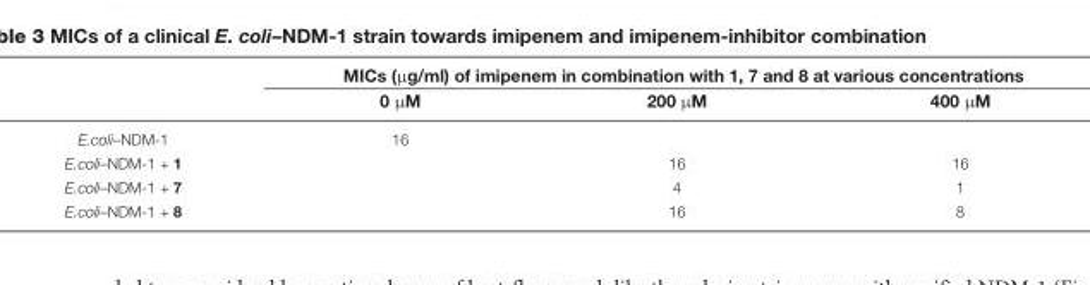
<table><thead><tr><td rowspan="2"></td><td colspan="3">MICs (μg/ml) of imipenem in combination with 1, 7 and 8 at various concentrations</td></tr><tr><td>0 μM</td><td>200 μM</td><td>400 μM</td></tr></thead><tbody><tr><td>E.coli–NDM-1</td><td>16</td><td></td><td></td></tr><tr><td>E.coli–NDM-1 + 1</td><td></td><td>16</td><td>16</td></tr><tr><td>E.coli–NDM-1 + 7</td><td></td><td>4</td><td>1</td></tr><tr><td>E.coli–NDM-1 + 8</td><td></td><td>16</td><td>8</td></tr></tbody></table>